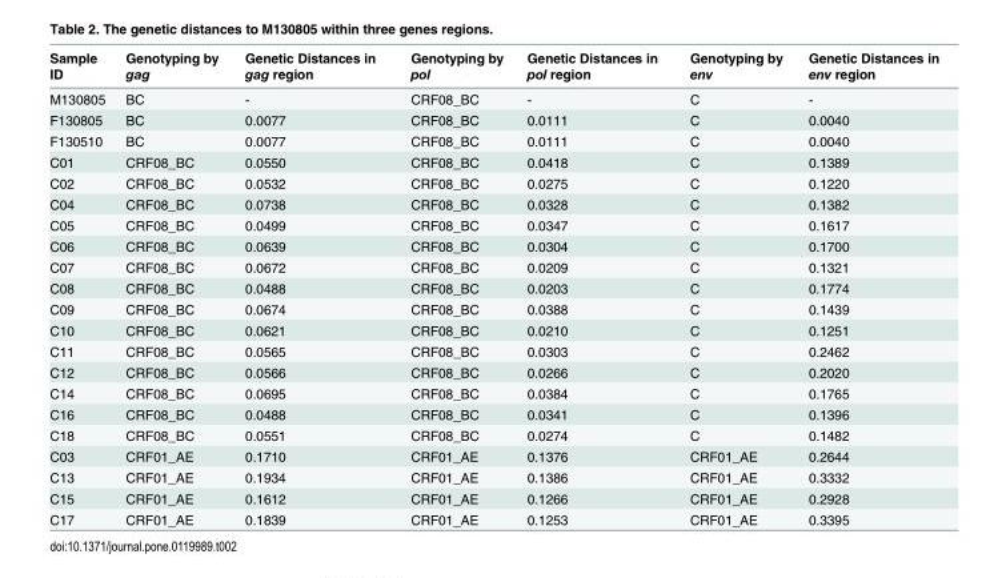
<table><thead><tr><td>Sample ID</td><td>Genotyping by gag</td><td>Genetic Distances in gag region</td><td>Genotyping by pol</td><td>Genetic Distances in pol region</td><td>Genotyping by env</td><td>Genetic Distances in env region</td></tr></thead><tbody><tr><td>M130805</td><td>BC</td><td>-</td><td>CRF08_BC</td><td>-</td><td>C</td><td>-</td></tr><tr><td>F130805</td><td>BC</td><td>0.0077</td><td>CRF08_BC</td><td>0.0111</td><td>C</td><td>0.0040</td></tr><tr><td>F130510</td><td>BC</td><td>0.0077</td><td>CRF08_BC</td><td>0.0111</td><td>C</td><td>0.0040</td></tr><tr><td>C01</td><td>CRF08_BC</td><td>0.0550</td><td>CRF08_BC</td><td>0.0418</td><td>C</td><td>0.1389</td></tr><tr><td>C02</td><td>CRF08_BC</td><td>0.0532</td><td>CRF08_BC</td><td>0.0275</td><td>C</td><td>0.1220</td></tr><tr><td>C04</td><td>CRF08_BC</td><td>0.0738</td><td>CRF08_BC</td><td>0.0328</td><td>C</td><td>0.1382</td></tr><tr><td>C05</td><td>CRF08_BC</td><td>0.0499</td><td>CRF08_BC</td><td>0.0347</td><td>C</td><td>0.1617</td></tr><tr><td>C06</td><td>CRF08_BC</td><td>0.0639</td><td>CRF08_BC</td><td>0.0304</td><td>C</td><td>0.1700</td></tr><tr><td>C07</td><td>CRF08_BC</td><td>0.0672</td><td>CRF08_BC</td><td>0.0209</td><td>C</td><td>0.1321</td></tr><tr><td>C08</td><td>CRF08_BC</td><td>0.0488</td><td>CRF08_BC</td><td>0.0203</td><td>C</td><td>0.1774</td></tr><tr><td>C09</td><td>CRF08_BC</td><td>0.0674</td><td>CRF08_BC</td><td>0.0388</td><td>C</td><td>0.1439</td></tr><tr><td>C10</td><td>CRF08_BC</td><td>0.0621</td><td>CRF08_BC</td><td>0.0210</td><td>C</td><td>0.1251</td></tr><tr><td>C11</td><td>CRF08_BC</td><td>0.0565</td><td>CRF08_BC</td><td>0.0303</td><td>C</td><td>0.2462</td></tr><tr><td>C12</td><td>CRF08_BC</td><td>0.0566</td><td>CRF08_BC</td><td>0.0266</td><td>C</td><td>0.2020</td></tr><tr><td>C14</td><td>CRF08_BC</td><td>0.0695</td><td>CRF08_BC</td><td>0.0384</td><td>C</td><td>0.1765</td></tr><tr><td>C16</td><td>CRF08_BC</td><td>0.0488</td><td>CRF08_BC</td><td>0.0341</td><td>C</td><td>0.1396</td></tr><tr><td>C18</td><td>CRF08_BC</td><td>0.0551</td><td>CRF08_BC</td><td>0.0274</td><td>C</td><td>0.1482</td></tr><tr><td>C03</td><td>CRF01_AE</td><td>0.1710</td><td>CRF01_AE</td><td>0.1376</td><td>CRF01_AE</td><td>0.2644</td></tr><tr><td>C13</td><td>CRF01_AE</td><td>0.1934</td><td>CRF01_AE</td><td>0.1386</td><td>CRF01_AE</td><td>0.3332</td></tr><tr><td>C15</td><td>CRF01_AE</td><td>0.1612</td><td>CRF01_AE</td><td>0.1266</td><td>CRF01_AE</td><td>0.2928</td></tr><tr><td>C17</td><td>CRF01_AE</td><td>0.1839</td><td>CRF01_AE</td><td>0.1253</td><td>CRF01_AE</td><td>0.3395</td></tr></tbody></table>